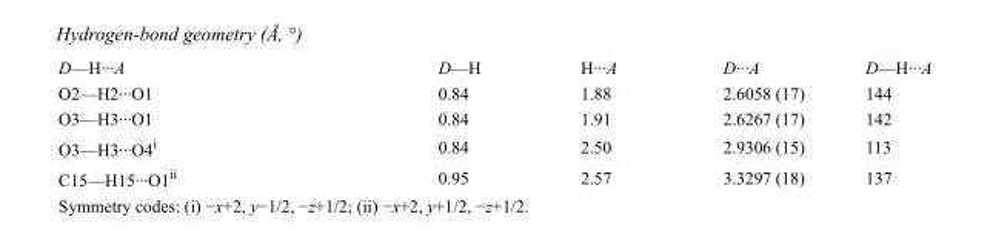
<table><tbody><tr><td>D—H···A</td><td>D—H</td><td>H···A</td><td>D···A</td><td>D—H···A</td></tr><tr><td>O2—H2···O1</td><td>0.84</td><td>1.88</td><td>2.6058 (17)</td><td>144</td></tr><tr><td>O3—H3···O1</td><td>0.84</td><td>1.91</td><td>2.6267 (17)</td><td>142</td></tr><tr><td>O3—H3···O4<sup>i</sup></td><td>0.84</td><td>2.50</td><td>2.9306 (15)</td><td>113</td></tr><tr><td>C15—H15···O1<sup>ii</sup></td><td>0.95</td><td>2.57</td><td>3.3297 (18)</td><td>137</td></tr></tbody></table>